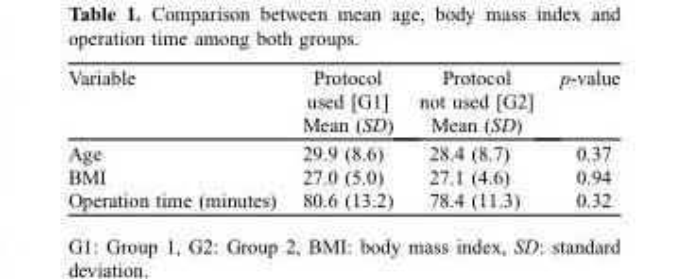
<table><thead><tr><td rowspan="2">Variable</td><td rowspan="2">Protocol used [G1] Mean (SD)</td><td rowspan="2">Protocol not used [G2] Mean (SD)</td><td rowspan="2">p-value</td></tr><tr></tr></thead><tbody><tr><td>Age</td><td>29.9 (8.6)</td><td>28.4 (8.7)</td><td>0.37</td></tr><tr><td>BMI</td><td>27.0 (5.0)</td><td>27.1 (4.6)</td><td>0.94</td></tr><tr><td>Operation time (minutes)</td><td>80.6 (13.2)</td><td>78.4 (11.3)</td><td>0.32</td></tr></tbody></table>